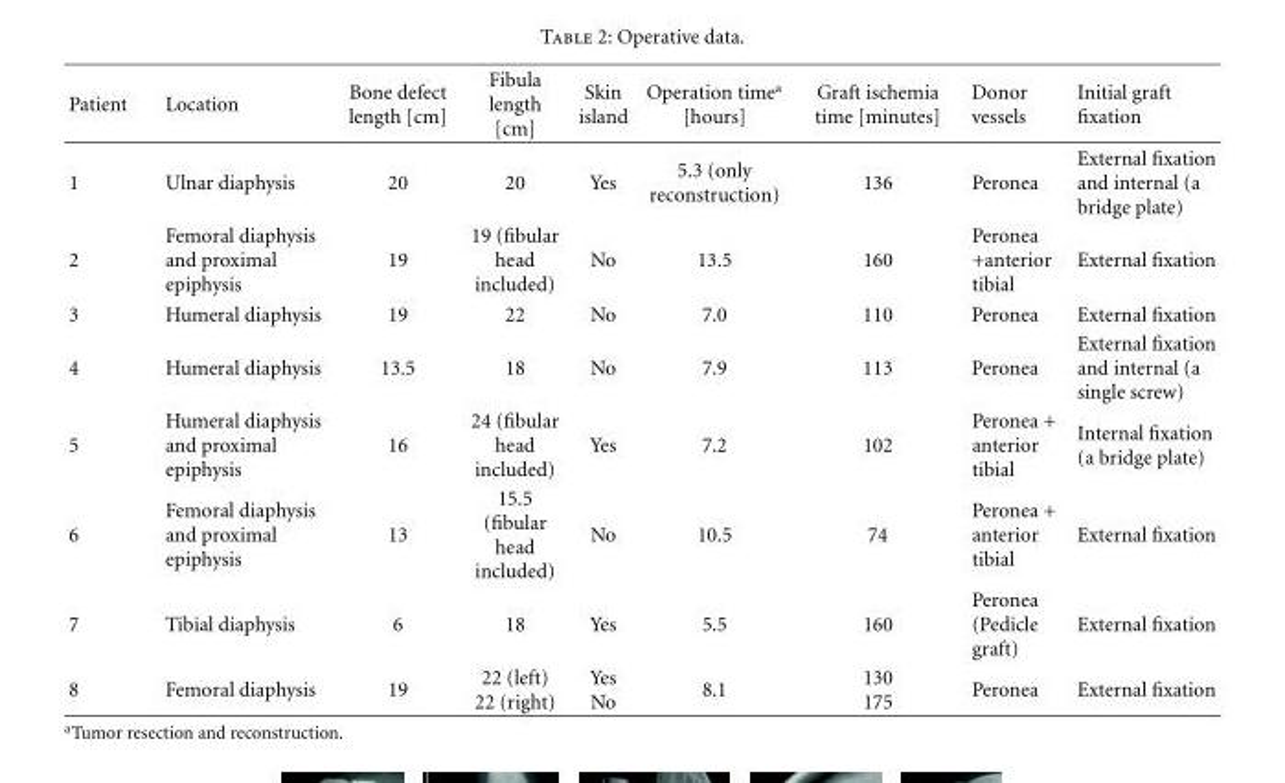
<table><thead><tr><td>Patient</td><td>Location</td><td>Bone defect length [cm]</td><td>Fibula length [cm]</td><td>Skin island</td><td>Operation time<sup>a</sup> [hours]</td><td>Graft ischemia time [minutes]</td><td>Donor vessels</td><td>Initial graft fixation</td></tr></thead><tbody><tr><td>1</td><td>Ulnar diaphysis</td><td>20</td><td>20</td><td>Yes</td><td>5.3 (only reconstruction)</td><td>136</td><td>Peronea</td><td>External fixation and internal (a bridge plate)</td></tr><tr><td>2</td><td>Femoral diaphysis and proximal epiphysis</td><td>19</td><td>19 (fibular head included)</td><td>No</td><td>13.5</td><td>160</td><td>Peronea +anterior tibial</td><td>External fixation</td></tr><tr><td>3</td><td>Humeral diaphysis</td><td>19</td><td>22</td><td>No</td><td>7.0</td><td>110</td><td>Peronea</td><td>External fixation</td></tr><tr><td>4</td><td>Humeral diaphysis</td><td>13.5</td><td>18</td><td>No</td><td>7.9</td><td>113</td><td>Peronea</td><td>External fixation and internal (a single screw)</td></tr><tr><td>5</td><td>Humeral diaphysis and proximal epiphysis</td><td>16</td><td>24 (fibular head included)</td><td>Yes</td><td>7.2</td><td>102</td><td>Peronea + anterior tibial</td><td>Internal fixation (a bridge plate)</td></tr><tr><td>6</td><td>Femoral diaphysis and proximal epiphysis</td><td>13</td><td>15.5 (fibular head included)</td><td>No</td><td>10.5</td><td>74</td><td>Peronea + anterior tibial</td><td>External fixation</td></tr><tr><td>7</td><td>Tibial diaphysis</td><td>6</td><td>18</td><td>Yes</td><td>5.5</td><td>160</td><td>Peronea (Pedicle graft)</td><td>External fixation</td></tr><tr><td>8</td><td>Femoral diaphysis</td><td>19</td><td>22 (left) 22 (right)</td><td>Yes No</td><td>8.1</td><td>130 175</td><td>Peronea</td><td>External fixation</td></tr></tbody></table>